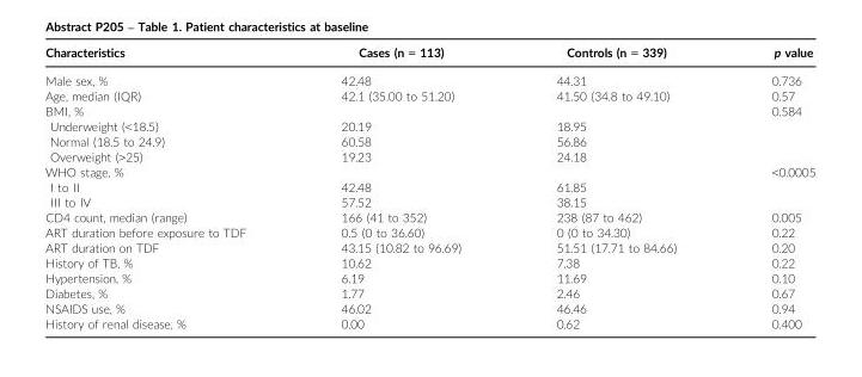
<table><thead><tr><td>Characteristics</td><td>Cases (n = 113)</td><td>Controls (n = 339)</td><td>p value</td></tr></thead><tbody><tr><td>Male sex, %</td><td>42.48</td><td>44.31</td><td>0.736</td></tr><tr><td>Age, median (IQR)</td><td>42.1 (35.00 to 51.20)</td><td>41.50 (34.8 to 49.10)</td><td>0.57</td></tr><tr><td colspan="3">BMI, %</td><td>0.584</td></tr><tr><td>Underweight (&lt;18.5)</td><td>20.19</td><td>18.95</td><td></td></tr><tr><td>Normal (18.5 to 24.9)</td><td>60.58</td><td>56.86</td><td></td></tr><tr><td>Overweight (&gt;25)</td><td>19.23</td><td>24.18</td><td></td></tr><tr><td colspan="3">WHO stage, %</td><td>&lt;0.0005</td></tr><tr><td>I to II</td><td>42.48</td><td>61.85</td><td></td></tr><tr><td>III to IV</td><td>57.52</td><td>38.15</td><td></td></tr><tr><td>CD4 count, median (range)</td><td>166 (41 to 352)</td><td>238 (87 to 462)</td><td>0.005</td></tr><tr><td>ART duration before exposure to TDF</td><td>0.5 (0 to 36.60)</td><td>0 (0 to 34.30)</td><td>0.22</td></tr><tr><td>ART duration on TDF</td><td>43.15 (10.82 to 96.69)</td><td>51.51 (17.71 to 84.66)</td><td>0.20</td></tr><tr><td>History of TB, %</td><td>10.62</td><td>7.38</td><td>0.22</td></tr><tr><td>Hypertension, %</td><td>6.19</td><td>11.69</td><td>0.10</td></tr><tr><td>Diabetes, %</td><td>1.77</td><td>2.46</td><td>0.67</td></tr><tr><td>NSAIDS use, %</td><td>46.02</td><td>46.46</td><td>0.94</td></tr><tr><td>History of renal disease, %</td><td>0.00</td><td>0.62</td><td>0.400</td></tr></tbody></table>